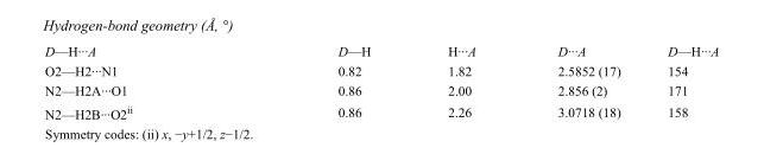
<table><tbody><tr><td>D—H···A</td><td>D—H</td><td>H···A</td><td>D···A</td><td>D—H···A</td></tr><tr><td>O2—H2···N1</td><td>0.82</td><td>1.82</td><td>2.5852 (17)</td><td>154</td></tr><tr><td>N2—H2A···O1</td><td>0.86</td><td>2.00</td><td>2.856 (2)</td><td>171</td></tr><tr><td>N2—H2B···O2<sup>ii</sup></td><td>0.86</td><td>2.26</td><td>3.0718 (18)</td><td>158</td></tr></tbody></table>